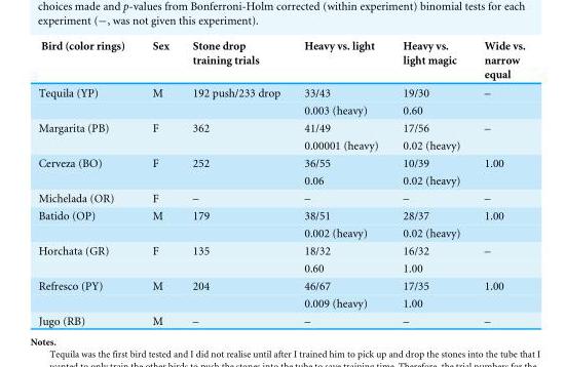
<table><thead><tr><td>Bird (color rings)</td><td>Sex</td><td>Stone drop training trials</td><td>Heavy vs. light</td><td>Heavy vs. light magic</td><td>Wide vs. narrow equal</td></tr></thead><tbody><tr><td rowspan="2">Tequila (YP)</td><td>M</td><td>192 push/233 drop</td><td>33/43</td><td>19/30</td><td>–</td></tr><tr><td></td><td></td><td>0.003 (heavy)</td><td>0.60</td><td></td></tr><tr><td rowspan="2">Margarita (PB)</td><td>F</td><td>362</td><td>41/49</td><td>17/56</td><td>–</td></tr><tr><td></td><td></td><td>0.00001 (heavy)</td><td>0.02 (heavy)</td><td></td></tr><tr><td rowspan="2">Cerveza (BO)</td><td>F</td><td>252</td><td>36/55</td><td>10/39</td><td>1.00</td></tr><tr><td></td><td></td><td>0.06</td><td>0.02 (heavy)</td><td></td></tr><tr><td>Michelada (OR)</td><td>F</td><td>–</td><td>–</td><td>–</td><td>–</td></tr><tr><td rowspan="2">Batido (OP)</td><td>M</td><td>179</td><td>38/51</td><td>28/37</td><td>1.00</td></tr><tr><td></td><td></td><td>0.002 (heavy)</td><td>0.02 (heavy)</td><td></td></tr><tr><td rowspan="2">Horchata (GR)</td><td>F</td><td>135</td><td>18/32</td><td>16/32</td><td>–</td></tr><tr><td></td><td></td><td>0.60</td><td>1.00</td><td></td></tr><tr><td rowspan="2">Refresco (PY)</td><td>M</td><td>204</td><td>46/67</td><td>17/35</td><td>1.00</td></tr><tr><td></td><td></td><td>0.009 (heavy)</td><td>1.00</td><td></td></tr><tr><td>Jugo (RB)</td><td>M</td><td>–</td><td>–</td><td>–</td><td>–</td></tr></tbody></table>